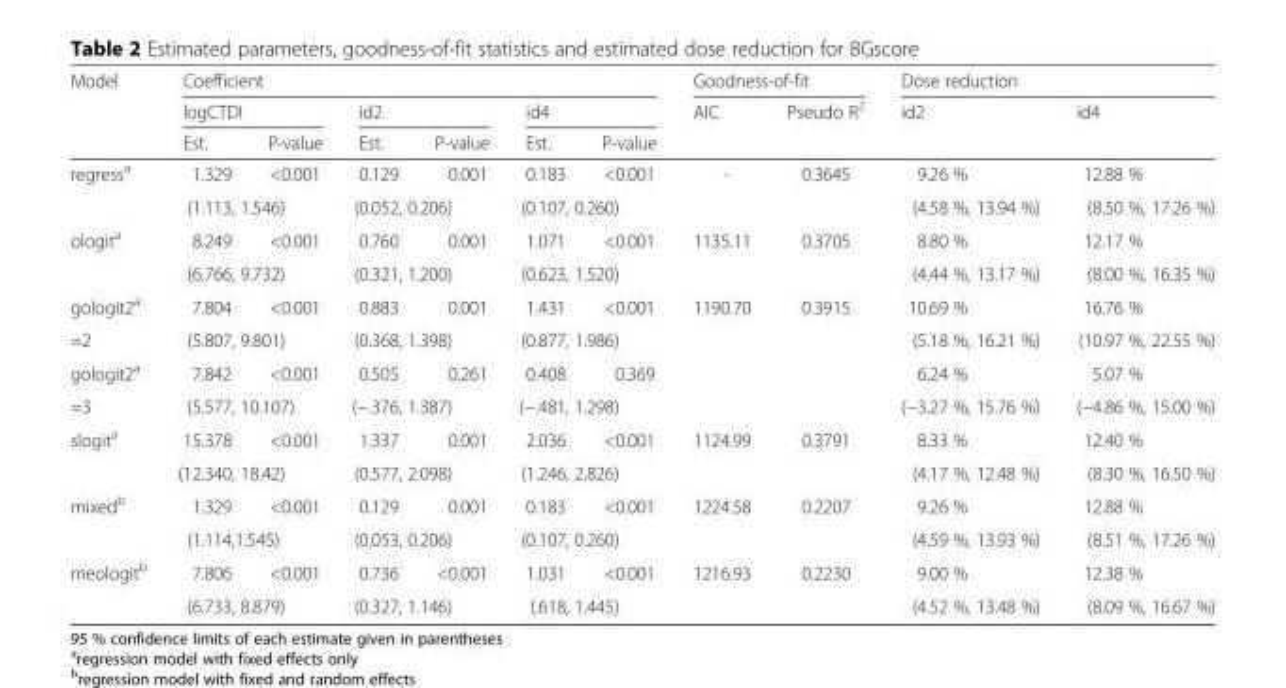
<table><thead><tr><td rowspan="3">Model</td><td colspan="6">Coefficient</td><td colspan="2">Goodness-of-fit</td><td colspan="2">Dose reduction</td></tr><tr><td colspan="2">logCTDI</td><td colspan="2">id2</td><td colspan="2">id4</td><td rowspan="2">AIC</td><td rowspan="2">Pseudo R<sup>2</sup></td><td rowspan="2">id2</td><td rowspan="2">id4</td></tr><tr><td>Est.</td><td>P-value</td><td>Est.</td><td>P-value</td><td>Est.</td><td>P-value</td></tr></thead><tbody><tr><td rowspan="2">regress<sup>a</sup></td><td>1.329</td><td>&lt;0.001</td><td>0.129</td><td>0.001</td><td>0.183</td><td>&lt;0.001</td><td rowspan="2">-</td><td rowspan="2">0.3645</td><td>9.26 %</td><td>12.88 %</td></tr><tr><td colspan="2">(1.113, 1.546)</td><td colspan="2">(0.052, 0.206)</td><td colspan="2">(0.107, 0.260)</td><td>(4.58 %, 13.94 %)</td><td>(8.50 %, 17.26 %)</td></tr><tr><td rowspan="2">ologit<sup>a</sup></td><td>8.249</td><td>&lt;0.001</td><td>0.760</td><td>0.001</td><td>1.071</td><td>&lt;0.001</td><td rowspan="2">1135.11</td><td rowspan="2">0.3705</td><td>8.80 %</td><td>12.17 %</td></tr><tr><td colspan="2">(6.766, 9.732)</td><td colspan="2">(0.321, 1.200)</td><td colspan="2">(0.623, 1.520)</td><td>(4.44 %, 13.17 %)</td><td>(8.00 %, 16.35 %)</td></tr><tr><td>gologit2<sup>a</sup></td><td>7.804</td><td>&lt;0.001</td><td>0.883</td><td>0.001</td><td>1.431</td><td>&lt;0.001</td><td rowspan="4">1190.70</td><td rowspan="4">0.3915</td><td>10.69 %</td><td>16.76 %</td></tr><tr><td>=2</td><td colspan="2">(5.807, 9.801)</td><td colspan="2">(0.368, 1.398)</td><td colspan="2">(0.877, 1.986)</td><td>(5.18 %, 16.21 %)</td><td>(10.97 %, 22.55 %)</td></tr><tr><td>gologit2<sup>a</sup></td><td>7.842</td><td>&lt;0.001</td><td>0.505</td><td>0.261</td><td>0.408</td><td>0.369</td><td>6.24 %</td><td>5.07 %</td></tr><tr><td>=3</td><td colspan="2">(5.577, 10.107)</td><td colspan="2">(−.376, 1.387)</td><td colspan="2">(−.481, 1.298)</td><td>(−3.27 %, 15.76 %)</td><td>(−4.86 %, 15.00 %)</td></tr><tr><td rowspan="2">slogit<sup>a</sup></td><td>15.378</td><td>&lt;0.001</td><td>1.337</td><td>0.001</td><td>2.036</td><td>&lt;0.001</td><td rowspan="2">1124.99</td><td rowspan="2">0.3791</td><td>8.33 %</td><td>12.40 %</td></tr><tr><td colspan="2">(12.340, 18.42)</td><td colspan="2">(0.577, 2.098)</td><td colspan="2">(1.246, 2.826)</td><td>(4.17 %, 12.48 %)</td><td>(8.30 %, 16.50 %)</td></tr><tr><td rowspan="2">mixed<sup>b</sup></td><td>1.329</td><td>&lt;0.001</td><td>0.129</td><td>0.001</td><td>0.183</td><td>&lt;0.001</td><td rowspan="2">1224.58</td><td rowspan="2">0.2207</td><td>9.26 %</td><td>12.88 %</td></tr><tr><td colspan="2">(1.114,1.545)</td><td colspan="2">(0.053, 0.206)</td><td colspan="2">(0.107, 0.260)</td><td>(4.59 %, 13.93 %)</td><td>(8.51 %, 17.26 %)</td></tr><tr><td rowspan="2">meologit<sup>b</sup></td><td>7.806</td><td>&lt;0.001</td><td>0.736</td><td>&lt;0.001</td><td>1.031</td><td>&lt;0.001</td><td rowspan="2">1216.93</td><td rowspan="2">0.2230</td><td>9.00 %</td><td>12.38 %</td></tr><tr><td colspan="2">(6.733, 8.879)</td><td colspan="2">(0.327, 1.146)</td><td colspan="2">(.618, 1.445)</td><td>(4.52 %, 13.48 %)</td><td>(8.09 %, 16.67 %)</td></tr></tbody></table>